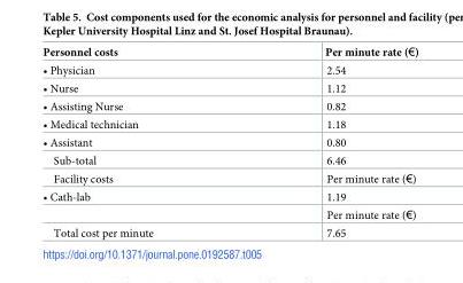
<table><thead><tr><td>Personnel costs</td><td>Per minute rate (€)</td></tr></thead><tbody><tr><td>• Physician</td><td>2.54</td></tr><tr><td>• Nurse</td><td>1.12</td></tr><tr><td>• Assisting Nurse</td><td>0.82</td></tr><tr><td>• Medical technician</td><td>1.18</td></tr><tr><td>• Assistant</td><td>0.80</td></tr><tr><td>Sub-total</td><td>6.46</td></tr><tr><td>Facility costs</td><td>Per minute rate (€)</td></tr><tr><td rowspan="2">• Cath-lab</td><td>1.19</td></tr><tr><td>Per minute rate (€)</td></tr><tr><td>Total cost per minute</td><td>7.65</td></tr></tbody></table>